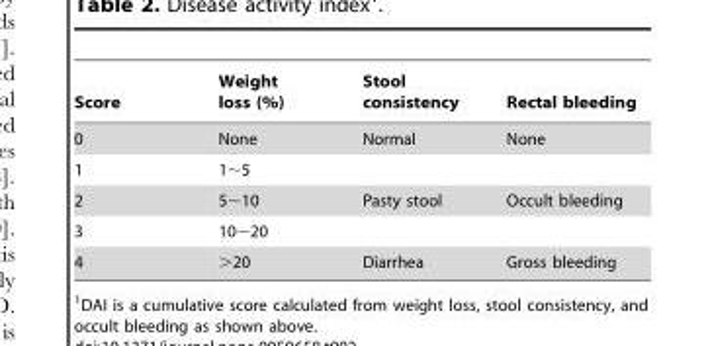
<table><thead><tr><td>Score</td><td>Weight loss (%)</td><td>Stool consistency</td><td>Rectal bleeding</td></tr></thead><tbody><tr><td>0</td><td>None</td><td>Normal</td><td>None</td></tr><tr><td>1</td><td>1∼5</td><td></td><td></td></tr><tr><td>2</td><td>5∼10</td><td>Pasty stool</td><td>Occult bleeding</td></tr><tr><td>3</td><td>10∼20</td><td></td><td></td></tr><tr><td>4</td><td>&gt;20</td><td>Diarrhea</td><td>Gross bleeding</td></tr></tbody></table>